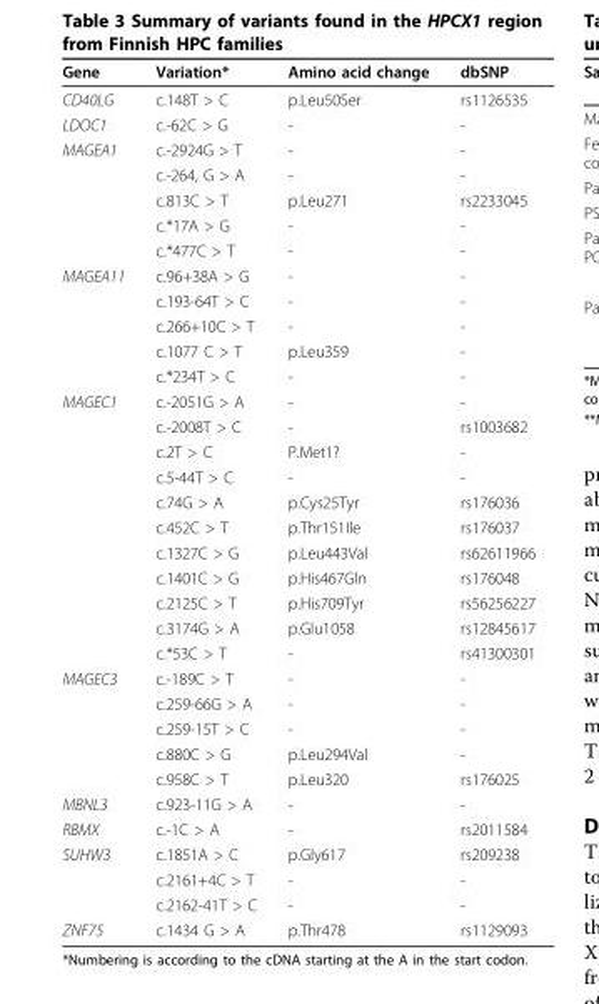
<table><thead><tr><td>Gene</td><td>Variation*</td><td>Amino acid change</td><td>dbSNP</td></tr></thead><tbody><tr><td>CD40LG</td><td>c.148T &gt; C</td><td>p.Leu50Ser</td><td>rs1126535</td></tr><tr><td>LDOC1</td><td>c.-62C &gt; G</td><td>-</td><td>-</td></tr><tr><td rowspan="5">MAGEA1</td><td>c.-2924G &gt; T</td><td>-</td><td>-</td></tr><tr><td>c.-264, G &gt; A</td><td>-</td><td>-</td></tr><tr><td>c.813C &gt; T</td><td>p.Leu271</td><td>rs2233045</td></tr><tr><td>c.*17A &gt; G</td><td>-</td><td>-</td></tr><tr><td>c.*477C &gt; T</td><td>-</td><td>-</td></tr><tr><td rowspan="5">MAGEA11</td><td>c.96+38A &gt; G</td><td>-</td><td>-</td></tr><tr><td>c.193-64T &gt; C</td><td>-</td><td>-</td></tr><tr><td>c.266+10C &gt; T</td><td>-</td><td>-</td></tr><tr><td>c.1077 C &gt; T</td><td>p.Leu359</td><td>-</td></tr><tr><td>c.*234T &gt; C</td><td>-</td><td>-</td></tr><tr><td rowspan="11">MAGEC1</td><td>c.-2051G &gt; A</td><td>-</td><td>-</td></tr><tr><td>c.-2008T &gt; C</td><td>-</td><td>rs1003682</td></tr><tr><td>c.2T &gt; C</td><td>P.Met1?</td><td>-</td></tr><tr><td>c.5-44T &gt; C</td><td>-</td><td>-</td></tr><tr><td>c.74G &gt; A</td><td>p.Cys25Tyr</td><td>rs176036</td></tr><tr><td>c.452C &gt; T</td><td>p.Thr151Ile</td><td>rs176037</td></tr><tr><td>c.1327C &gt; G</td><td>p.Leu443Val</td><td>rs62611966</td></tr><tr><td>c.1401C &gt; G</td><td>p.His467Gln</td><td>rs176048</td></tr><tr><td>c.2125C &gt; T</td><td>p.His709Tyr</td><td>rs56256227</td></tr><tr><td>c.3174G &gt; A</td><td>p.Glu1058</td><td>rs12845617</td></tr><tr><td>c.*53C &gt; T</td><td>-</td><td>rs41300301</td></tr><tr><td rowspan="5">MAGEC3</td><td>c.-189C &gt; T</td><td>-</td><td>-</td></tr><tr><td>c.259-66G &gt; A</td><td>-</td><td>-</td></tr><tr><td>c.259-15T &gt; C</td><td>-</td><td>-</td></tr><tr><td>c.880C &gt; G</td><td>p.Leu294Val</td><td>-</td></tr><tr><td>c.958C &gt; T</td><td>p.Leu320</td><td>rs176025</td></tr><tr><td>MBNL3</td><td>c.923-11G &gt; A</td><td>-</td><td>-</td></tr><tr><td>RBMX</td><td>c.-1C &gt; A</td><td>-</td><td>rs2011584</td></tr><tr><td rowspan="3">SUHW3</td><td>c.1851A &gt; C</td><td>p.Gly617</td><td>rs209238</td></tr><tr><td>c.2161+4C &gt; T</td><td>-</td><td>-</td></tr><tr><td>c.2162-41T &gt; C</td><td>-</td><td>-</td></tr><tr><td>ZNF75</td><td>c.1434 G &gt; A</td><td>p.Thr478</td><td>rs1129093</td></tr></tbody></table>